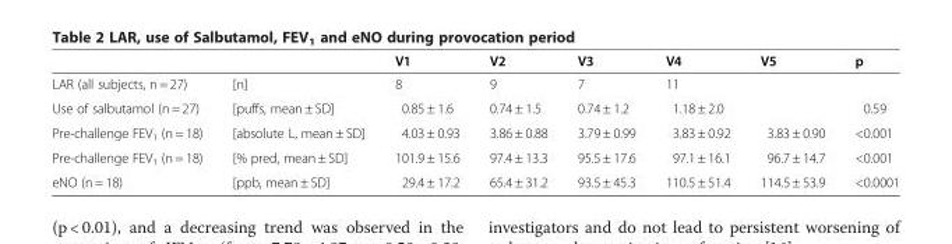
<table><thead><tr><td></td><td></td><td>V1</td><td>V2</td><td>V3</td><td>V4</td><td>V5</td><td>p</td></tr></thead><tbody><tr><td>LAR (all subjects, n = 27)</td><td>[n]</td><td>8</td><td>9</td><td>7</td><td>11</td><td></td><td></td></tr><tr><td>Use of salbutamol (n = 27)</td><td>[puffs, mean ± SD]</td><td>0.85 ± 1.6</td><td>0.74 ± 1.5</td><td>0.74 ± 1.2</td><td>1.18 ± 2.0</td><td></td><td>0.59</td></tr><tr><td>Pre-challenge FEV<sub>1</sub> (n = 18)</td><td>[absolute L, mean ± SD]</td><td>4.03 ± 0.93</td><td>3.86 ± 0.88</td><td>3.79 ± 0.99</td><td>3.83 ± 0.92</td><td>3.83 ± 0.90</td><td>&lt;0.001</td></tr><tr><td>Pre-challenge FEV<sub>1</sub> (n = 18)</td><td>[% pred, mean ± SD]</td><td>101.9 ± 15.6</td><td>97.4 ± 13.3</td><td>95.5 ± 17.6</td><td>97.1 ± 16.1</td><td>96.7 ± 14.7</td><td>&lt;0.001</td></tr><tr><td>eNO (n = 18)</td><td>[ppb, mean ± SD]</td><td>29.4 ± 17.2</td><td>65.4 ± 31.2</td><td>93.5 ± 45.3</td><td>110.5 ± 51.4</td><td>114.5 ± 53.9</td><td>&lt;0.0001</td></tr></tbody></table>